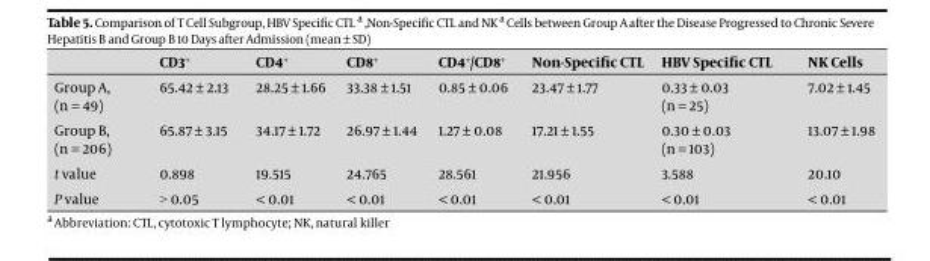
<table><thead><tr><td></td><td>CD3<sup>+</sup></td><td>CD4<sup>+</sup></td><td>CD8<sup>+</sup></td><td>CD4+/CD8<sup>+</sup></td><td>Non-Specific CTL</td><td>HBV Specific CTL</td><td>NK Cells</td></tr></thead><tbody><tr><td>Group A, (n = 49)</td><td>65.42 ± 2.13</td><td>28.25 ± 1.66</td><td>33.38 ± 1.51</td><td>0.85 ± 0.06</td><td>23.47 ± 1.77</td><td>0.33 ± 0.03 (n = 25)</td><td>7.02 ± 1.45</td></tr><tr><td>Group B, (n = 206)</td><td>65.87 ± 3.15</td><td>34.17 ± 1.72</td><td>26.97 ± 1.44</td><td>1.27 ± 0.08</td><td>17.21 ± 1.55</td><td>0.30 ± 0.03 (n = 103)</td><td>13.07 ± 1.98</td></tr><tr><td>t value</td><td>0.898</td><td>19.515</td><td>24.765</td><td>28.561</td><td>21.956</td><td>3.588</td><td>20.10</td></tr><tr><td>P value</td><td>&gt; 0.05</td><td>&lt; 0.01</td><td>&lt; 0.01</td><td>&lt; 0.01</td><td>&lt; 0.01</td><td>&lt; 0.01</td><td>&lt; 0.01</td></tr></tbody></table>